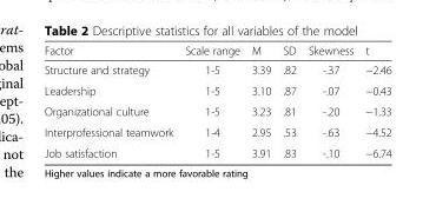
<table><thead><tr><td>Factor</td><td>Scale range</td><td>M</td><td>SD</td><td>Skewness</td><td>t</td></tr></thead><tbody><tr><td>Structure and strategy</td><td>1-5</td><td>3.39</td><td>.82</td><td>-.37</td><td>−2.46</td></tr><tr><td>Leadership</td><td>1-5</td><td>3.10</td><td>.87</td><td>-.07</td><td>−0.43</td></tr><tr><td>Organizational culture</td><td>1-5</td><td>3.23</td><td>.81</td><td>-.20</td><td>−1.33</td></tr><tr><td>Interprofessional teamwork</td><td>1-4</td><td>2.95</td><td>.53</td><td>-.63</td><td>−4.52</td></tr><tr><td>Job satisfaction</td><td>1-5</td><td>3.91</td><td>.83</td><td>-.10</td><td>−6.74</td></tr></tbody></table>